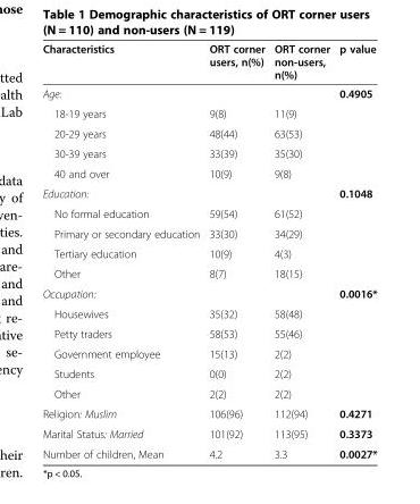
<table><thead><tr><td>Characteristics</td><td>ORT corner users, n(%)</td><td>ORT corner non-users, n(%)</td><td>p value</td></tr></thead><tbody><tr><td>Age:</td><td></td><td></td><td>0.4905</td></tr><tr><td>18-19 years</td><td>9(8)</td><td>11(9)</td><td></td></tr><tr><td>20-29 years</td><td>48(44)</td><td>63(53)</td><td></td></tr><tr><td>30-39 years</td><td>33(39)</td><td>35(30)</td><td></td></tr><tr><td>40 and over</td><td>10(9)</td><td>9(8)</td><td></td></tr><tr><td>Education:</td><td></td><td></td><td>0.1048</td></tr><tr><td>No formal education</td><td>59(54)</td><td>61(52)</td><td></td></tr><tr><td>Primary or secondary education</td><td>33(30)</td><td>34(29)</td><td></td></tr><tr><td>Tertiary education</td><td>10(9)</td><td>4(3)</td><td></td></tr><tr><td>Other</td><td>8(7)</td><td>18(15)</td><td></td></tr><tr><td>Occupation:</td><td></td><td></td><td>0.0016*</td></tr><tr><td>Housewives</td><td>35(32)</td><td>58(48)</td><td></td></tr><tr><td>Petty traders</td><td>58(53)</td><td>55(46)</td><td></td></tr><tr><td>Government employee</td><td>15(13)</td><td>2(2)</td><td></td></tr><tr><td>Students</td><td>0(0)</td><td>2(2)</td><td></td></tr><tr><td>Other</td><td>2(2)</td><td>2(2)</td><td></td></tr><tr><td>Religion: Muslim</td><td>106(96)</td><td>112(94)</td><td>0.4271</td></tr><tr><td>Marital Status: Married</td><td>101(92)</td><td>113(95)</td><td>0.3373</td></tr><tr><td>Number of children, Mean</td><td>4.2</td><td>3.3</td><td>0.0027*</td></tr></tbody></table>